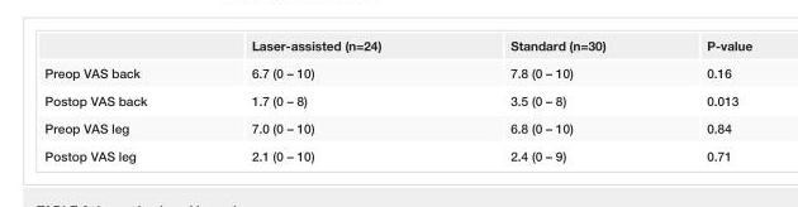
<table><thead><tr><td></td><td>Laser-assisted (n=24)</td><td>Standard (n=30)</td><td>P-value</td></tr></thead><tbody><tr><td>Preop VAS back</td><td>6.7 (0 – 10)</td><td>7.8 (0 – 10)</td><td>0.16</td></tr><tr><td>Postop VAS back</td><td>1.7 (0 – 8)</td><td>3.5 (0 – 8)</td><td>0.013</td></tr><tr><td>Preop VAS leg</td><td>7.0 (0 – 10)</td><td>6.8 (0 – 10)</td><td>0.84</td></tr><tr><td>Postop VAS leg</td><td>2.1 (0 – 10)</td><td>2.4 (0 – 9)</td><td>0.71</td></tr></tbody></table>